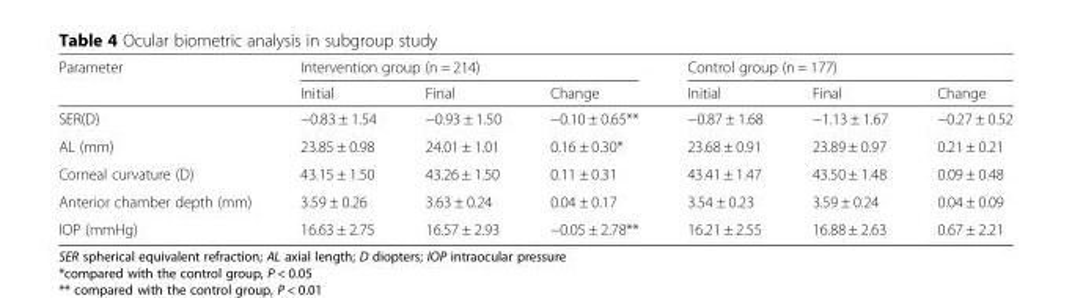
<table><thead><tr><td rowspan="2">Parameter</td><td colspan="3">Intervention group (n = 214)</td><td colspan="3">Control group (n = 177)</td></tr><tr><td>Initial</td><td>Final</td><td>Change</td><td>Initial</td><td>Final</td><td>Change</td></tr></thead><tbody><tr><td>SER(D)</td><td>−0.83 ± 1.54</td><td>−0.93 ± 1.50</td><td>−0.10 ± 0.65**</td><td>−0.87 ± 1.68</td><td>−1.13 ± 1.67</td><td>−0.27 ± 0.52</td></tr><tr><td>AL (mm)</td><td>23.85 ± 0.98</td><td>24.01 ± 1.01</td><td>0.16 ± 0.30*</td><td>23.68 ± 0.91</td><td>23.89 ± 0.97</td><td>0.21 ± 0.21</td></tr><tr><td>Corneal curvature (D)</td><td>43.15 ± 1.50</td><td>43.26 ± 1.50</td><td>0.11 ± 0.31</td><td>43.41 ± 1.47</td><td>43.50 ± 1.48</td><td>0.09 ± 0.48</td></tr><tr><td>Anterior chamber depth (mm)</td><td>3.59 ± 0.26</td><td>3.63 ± 0.24</td><td>0.04 ± 0.17</td><td>3.54 ± 0.23</td><td>3.59 ± 0.24</td><td>0.04 ± 0.09</td></tr><tr><td>IOP (mmHg)</td><td>16.63 ± 2.75</td><td>16.57 ± 2.93</td><td>−0.05 ± 2.78**</td><td>16.21 ± 2.55</td><td>16.88 ± 2.63</td><td>0.67 ± 2.21</td></tr></tbody></table>